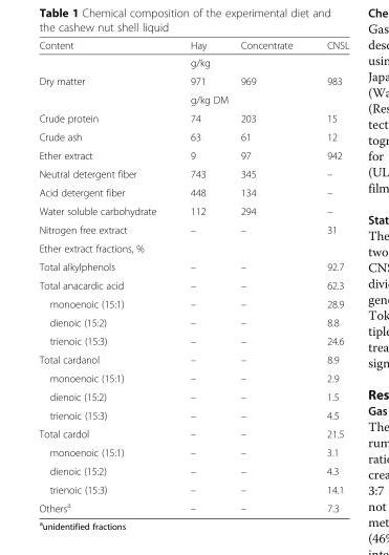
<table><thead><tr><td>Content</td><td>Hay</td><td>Concentrate</td><td>CNSL</td></tr></thead><tbody><tr><td></td><td colspan="3">g/kg</td></tr><tr><td rowspan="2">Dry matter</td><td>971</td><td>969</td><td>983</td></tr><tr><td colspan="3">g/kg DM</td></tr><tr><td>Crude protein</td><td>74</td><td>203</td><td>15</td></tr><tr><td>Crude ash</td><td>63</td><td>61</td><td>12</td></tr><tr><td>Ether extract</td><td>9</td><td>97</td><td>942</td></tr><tr><td>Neutral detergent fiber</td><td>743</td><td>345</td><td>–</td></tr><tr><td>Acid detergent fiber</td><td>448</td><td>134</td><td>–</td></tr><tr><td>Water soluble carbohydrate</td><td>112</td><td>294</td><td>–</td></tr><tr><td>Nitrogen free extract</td><td>–</td><td>–</td><td>31</td></tr><tr><td colspan="4">Ether extract fractions, %</td></tr><tr><td>Total alkylphenols</td><td>–</td><td>–</td><td>92.7</td></tr><tr><td>Total anacardic acid</td><td>–</td><td>–</td><td>62.3</td></tr><tr><td>monoenoic (15:1)</td><td>–</td><td>–</td><td>28.9</td></tr><tr><td>dienoic (15:2)</td><td>–</td><td>–</td><td>8.8</td></tr><tr><td>trienoic (15:3)</td><td>–</td><td>–</td><td>24.6</td></tr><tr><td>Total cardanol</td><td>–</td><td>–</td><td>8.9</td></tr><tr><td>monoenoic (15:1)</td><td>–</td><td>–</td><td>2.9</td></tr><tr><td>dienoic (15:2)</td><td>–</td><td>–</td><td>1.5</td></tr><tr><td>trienoic (15:3)</td><td>–</td><td>–</td><td>4.5</td></tr><tr><td>Total cardol</td><td>–</td><td>–</td><td>21.5</td></tr><tr><td>monoenoic (15:1)</td><td>–</td><td>–</td><td>3.1</td></tr><tr><td>dienoic (15:2)</td><td>–</td><td>–</td><td>4.3</td></tr><tr><td>trienoic (15:3)</td><td>–</td><td>–</td><td>14.1</td></tr><tr><td>Others<sup>a</sup></td><td>–</td><td>–</td><td>7.3</td></tr></tbody></table>